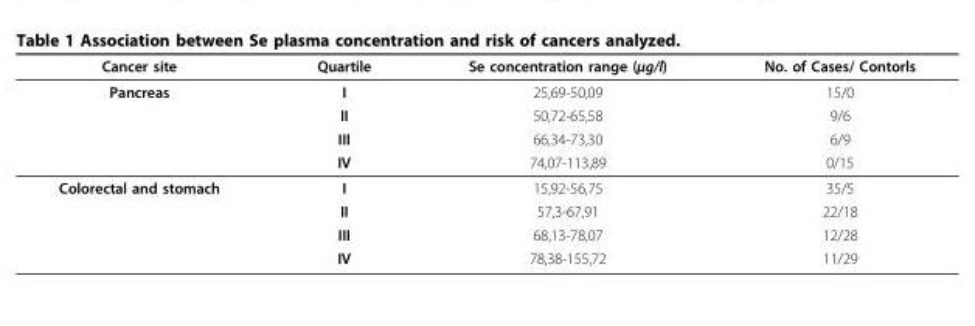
<table><thead><tr><td>Cancer site</td><td>Quartile</td><td>Se concentration range (µg/l)</td><td>No. of Cases/ Contorls</td></tr></thead><tbody><tr><td rowspan="4">Pancreas</td><td>I</td><td>25,69-50,09</td><td>15/0</td></tr><tr><td>II</td><td>50,72-65,58</td><td>9/6</td></tr><tr><td>III</td><td>66,34-73,30</td><td>6/9</td></tr><tr><td>IV</td><td>74,07-113,89</td><td>0/15</td></tr><tr><td rowspan="4">Colorectal and stomach</td><td>I</td><td>15,92-56,75</td><td>35/5</td></tr><tr><td>II</td><td>57,3-67,91</td><td>22/18</td></tr><tr><td>III</td><td>68,13-78,07</td><td>12/28</td></tr><tr><td>IV</td><td>78,38-155,72</td><td>11/29</td></tr></tbody></table>